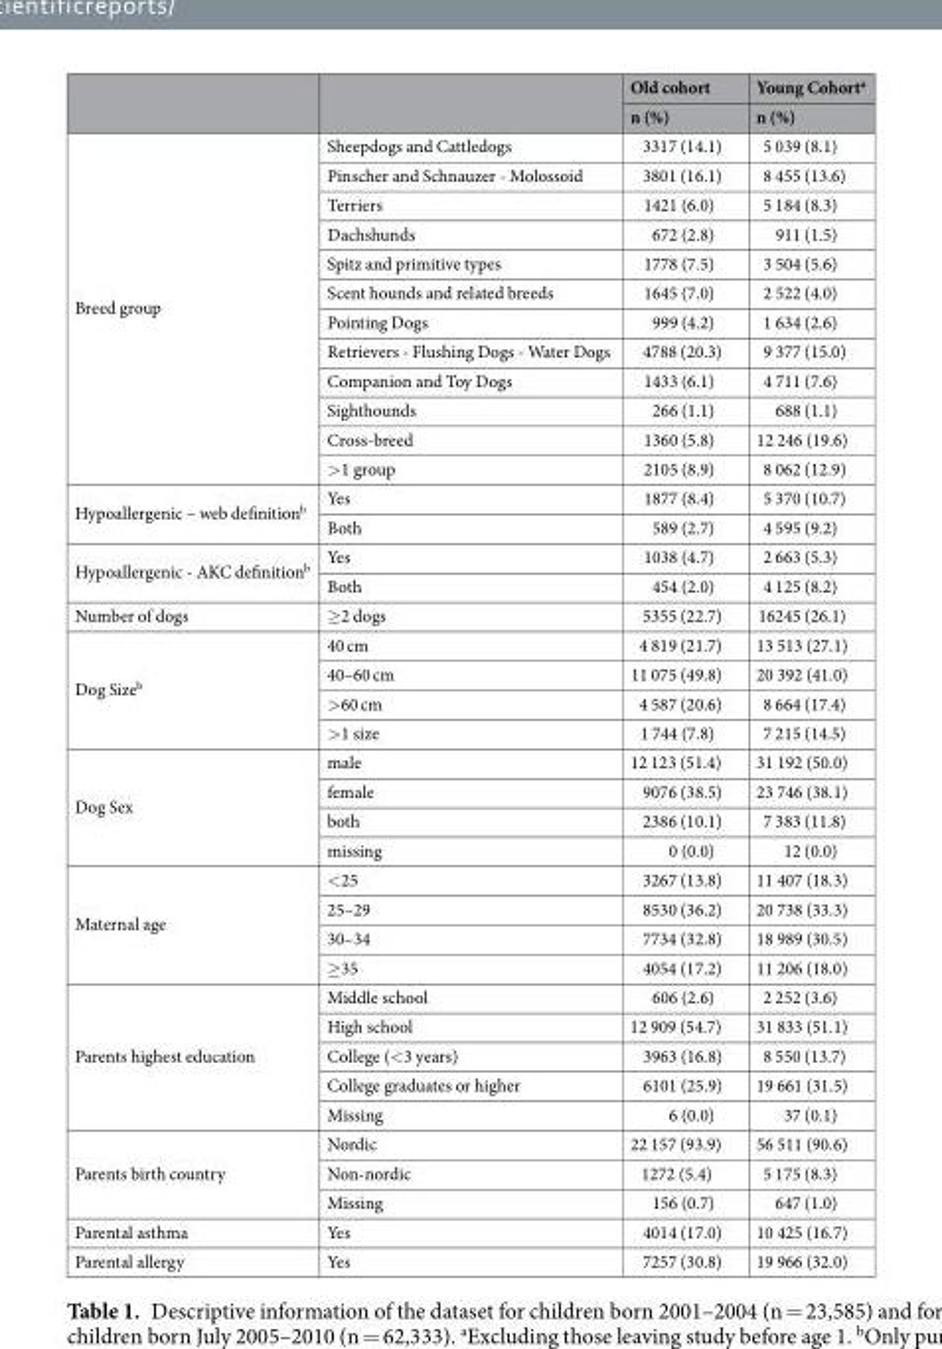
<table><thead><tr><td rowspan="2"></td><td rowspan="2"></td><td rowspan="2">Old cohort n (%)</td><td rowspan="2">Young Cohort<sup>a</sup> n (%)</td></tr><tr></tr></thead><tbody><tr><td rowspan="12">Breed group</td><td>Sheepdogs and Cattledogs</td><td>3317 (14.1)</td><td>5 039 (8.1)</td></tr><tr><td>Pinscher and Schnauzer - Molossoid</td><td>3801 (16.1)</td><td>8 455 (13.6)</td></tr><tr><td>Terriers</td><td>1421 (6.0)</td><td>5 184 (8.3)</td></tr><tr><td>Dachshunds</td><td>672 (2.8)</td><td>911 (1.5)</td></tr><tr><td>Spitz and primitive types</td><td>1778 (7.5)</td><td>3 504 (5.6)</td></tr><tr><td>Scent hounds and related breeds</td><td>1645 (7.0)</td><td>2 522 (4.0)</td></tr><tr><td>Pointing Dogs</td><td>999 (4.2)</td><td>1 634 (2.6)</td></tr><tr><td>Retrievers - Flushing Dogs - Water Dogs</td><td>4788 (20.3)</td><td>9 377 (15.0)</td></tr><tr><td>Companion and Toy Dogs</td><td>1433 (6.1)</td><td>4 711 (7.6)</td></tr><tr><td>Sighthounds</td><td>266 (1.1)</td><td>688 (1.1)</td></tr><tr><td>Cross-breed</td><td>1360 (5.8)</td><td>12 246 (19.6)</td></tr><tr><td>&gt;1 group</td><td>2105 (8.9)</td><td>8 062 (12.9)</td></tr><tr><td rowspan="2">Hypoallergenic – web definition<sup>b</sup></td><td>Yes</td><td>1877 (8.4)</td><td>5 370 (10.7)</td></tr><tr><td>Both</td><td>589 (2.7)</td><td>4 595 (9.2)</td></tr><tr><td rowspan="2">Hypoallergenic - AKC definition<sup>b</sup></td><td>Yes</td><td>1038 (4.7)</td><td>2 663 (5.3)</td></tr><tr><td>Both</td><td>454 (2.0)</td><td>4 125 (8.2)</td></tr><tr><td>Number of dogs</td><td>≥2 dogs</td><td>5355 (22.7)</td><td>16245 (26.1)</td></tr><tr><td rowspan="4">Dog Size<sup>b</sup></td><td>40 cm</td><td>4 819 (21.7)</td><td>13 513 (27.1)</td></tr><tr><td>40–60 cm</td><td>11 075 (49.8)</td><td>20 392 (41.0)</td></tr><tr><td>&gt;60 cm</td><td>4 587 (20.6)</td><td>8 664 (17.4)</td></tr><tr><td>&gt;1 size</td><td>1 744 (7.8)</td><td>7 215 (14.5)</td></tr><tr><td rowspan="4">Dog Sex</td><td>male</td><td>12 123 (51.4)</td><td>31 192 (50.0)</td></tr><tr><td>female</td><td>9076 (38.5)</td><td>23 746 (38.1)</td></tr><tr><td>both</td><td>2386 (10.1)</td><td>7 383 (11.8)</td></tr><tr><td>missing</td><td>0 (0.0)</td><td>12 (0.0)</td></tr><tr><td rowspan="4">Maternal age</td><td>&lt;25</td><td>3267 (13.8)</td><td>11 407 (18.3)</td></tr><tr><td>25–29</td><td>8530 (36.2)</td><td>20 738 (33.3)</td></tr><tr><td>30–34</td><td>7734 (32.8)</td><td>18 989 (30.5)</td></tr><tr><td>≥35</td><td>4054 (17.2)</td><td>11 206 (18.0)</td></tr><tr><td rowspan="5">Parents highest education</td><td>Middle school</td><td>606 (2.6)</td><td>2 252 (3.6)</td></tr><tr><td>High school</td><td>12 909 (54.7)</td><td>31 833 (51.1)</td></tr><tr><td>College (&lt;3 years)</td><td>3963 (16.8)</td><td>8 550 (13.7)</td></tr><tr><td>College graduates or higher</td><td>6101 (25.9)</td><td>19 661 (31.5)</td></tr><tr><td>Missing</td><td>6 (0.0)</td><td>37 (0.1)</td></tr><tr><td rowspan="3">Parents birth country</td><td>Nordic</td><td>22 157 (93.9)</td><td>56 511 (90.6)</td></tr><tr><td>Non-nordic</td><td>1272 (5.4)</td><td>5 175 (8.3)</td></tr><tr><td>Missing</td><td>156 (0.7)</td><td>647 (1.0)</td></tr><tr><td>Parental asthma</td><td>Yes</td><td>4014 (17.0)</td><td>10 425 (16.7)</td></tr><tr><td>Parental allergy</td><td>Yes</td><td>7257 (30.8)</td><td>19 966 (32.0)</td></tr></tbody></table>